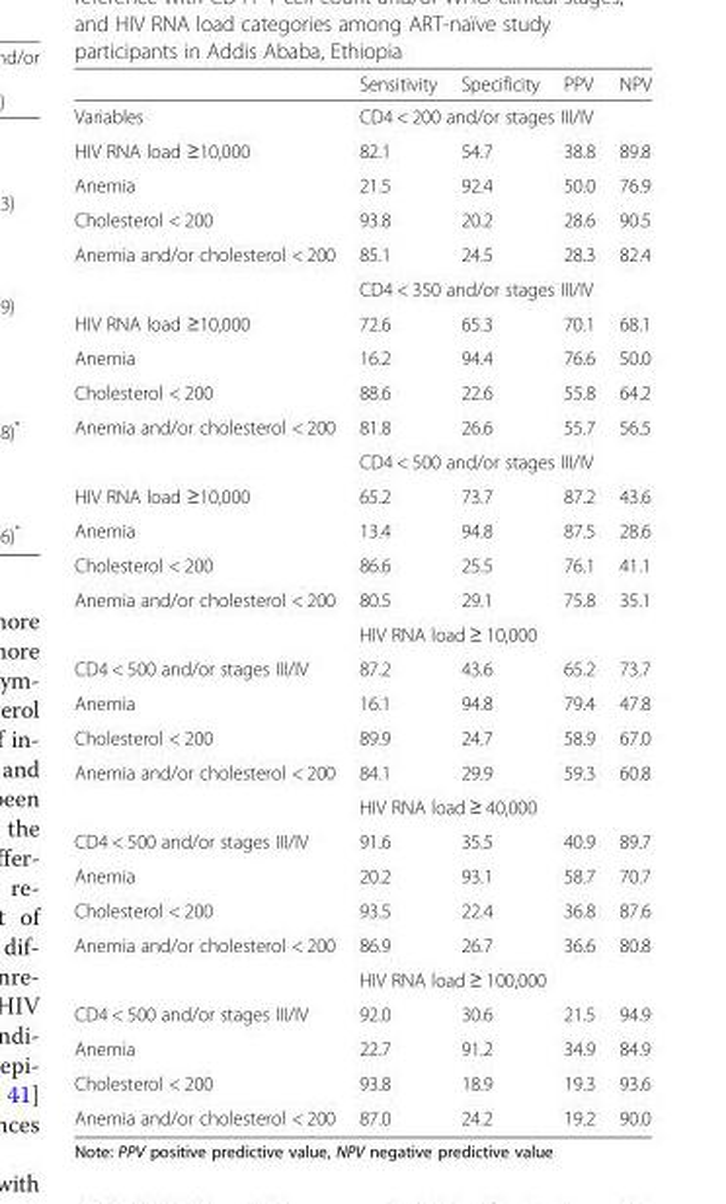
<table><thead><tr><td></td><td>Sensitivity</td><td>Specificity</td><td>PPV</td><td>NPV</td></tr></thead><tbody><tr><td>Variables</td><td colspan="4">CD4 &lt; 200 and/or stages III/IV</td></tr><tr><td>HIV RNA load ≥10,000</td><td>82.1</td><td>54.7</td><td>38.8</td><td>89.8</td></tr><tr><td>Anemia</td><td>21.5</td><td>92.4</td><td>50.0</td><td>76.9</td></tr><tr><td>Cholesterol &lt; 200</td><td>93.8</td><td>20.2</td><td>28.6</td><td>90.5</td></tr><tr><td rowspan="2">Anemia and/or cholesterol &lt; 200</td><td>85.1</td><td>24.5</td><td>28.3</td><td>82.4</td></tr><tr><td colspan="4">CD4 &lt; 350 and/or stages III/IV</td></tr><tr><td>HIV RNA load ≥10,000</td><td>72.6</td><td>65.3</td><td>70.1</td><td>68.1</td></tr><tr><td>Anemia</td><td>16.2</td><td>94.4</td><td>76.6</td><td>50.0</td></tr><tr><td>Cholesterol &lt; 200</td><td>88.6</td><td>22.6</td><td>55.8</td><td>64.2</td></tr><tr><td rowspan="2">Anemia and/or cholesterol &lt; 200</td><td>81.8</td><td>26.6</td><td>55.7</td><td>56.5</td></tr><tr><td colspan="4">CD4 &lt; 500 and/or stages III/IV</td></tr><tr><td>HIV RNA load ≥10,000</td><td>65.2</td><td>73.7</td><td>87.2</td><td>43.6</td></tr><tr><td>Anemia</td><td>13.4</td><td>94.8</td><td>87.5</td><td>28.6</td></tr><tr><td>Cholesterol &lt; 200</td><td>86.6</td><td>25.5</td><td>76.1</td><td>41.1</td></tr><tr><td rowspan="2">Anemia and/or cholesterol &lt; 200</td><td>80.5</td><td>29.1</td><td>75.8</td><td>35.1</td></tr><tr><td colspan="4">HIV RNA load ≥ 10,000</td></tr><tr><td>CD4 &lt; 500 and/or stages III/IV</td><td>87.2</td><td>43.6</td><td>65.2</td><td>73.7</td></tr><tr><td>Anemia</td><td>16.1</td><td>94.8</td><td>79.4</td><td>47.8</td></tr><tr><td>Cholesterol &lt; 200</td><td>89.9</td><td>24.7</td><td>58.9</td><td>67.0</td></tr><tr><td rowspan="2">Anemia and/or cholesterol &lt; 200</td><td>84.1</td><td>29.9</td><td>59.3</td><td>60.8</td></tr><tr><td colspan="4">HIV RNA load ≥ 40,000</td></tr><tr><td>CD4 &lt; 500 and/or stages III/IV</td><td>91.6</td><td>35.5</td><td>40.9</td><td>89.7</td></tr><tr><td>Anemia</td><td>20.2</td><td>93.1</td><td>58.7</td><td>70.7</td></tr><tr><td>Cholesterol &lt; 200</td><td>93.5</td><td>22.4</td><td>36.8</td><td>87.6</td></tr><tr><td rowspan="2">Anemia and/or cholesterol &lt; 200</td><td>86.9</td><td>26.7</td><td>36.6</td><td>80.8</td></tr><tr><td colspan="4">HIV RNA load ≥ 100,000</td></tr><tr><td>CD4 &lt; 500 and/or stages III/IV</td><td>92.0</td><td>30.6</td><td>21.5</td><td>94.9</td></tr><tr><td>Anemia</td><td>22.7</td><td>91.2</td><td>34.9</td><td>84.9</td></tr><tr><td>Cholesterol &lt; 200</td><td>93.8</td><td>18.9</td><td>19.3</td><td>93.6</td></tr><tr><td>Anemia and/or cholesterol &lt; 200</td><td>87.0</td><td>24.2</td><td>19.2</td><td>90.0</td></tr></tbody></table>